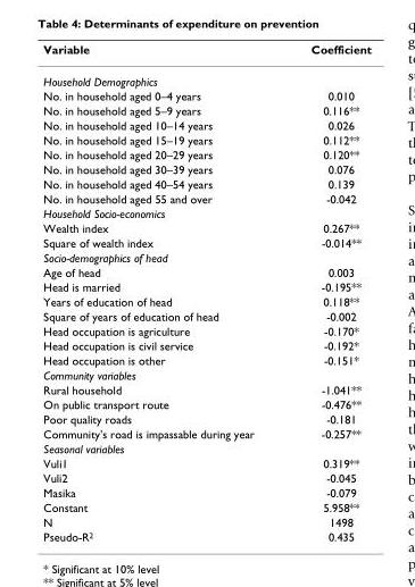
<table><thead><tr><td>Variable</td><td>Coefficient</td></tr></thead><tbody><tr><td colspan="2">Household Demographics</td></tr><tr><td>No. in household aged 0–4 years</td><td>0.010</td></tr><tr><td>No. in household aged 5–9 years</td><td>0.116**</td></tr><tr><td>No. in household aged 10–14 years</td><td>0.026</td></tr><tr><td>No. in household aged 15–19 years</td><td>0.112**</td></tr><tr><td>No. in household aged 20–29 years</td><td>0.120**</td></tr><tr><td>No. in household aged 30–39 years</td><td>0.076</td></tr><tr><td>No. in household aged 40–54 years</td><td>0.139</td></tr><tr><td>No. in household aged 55 and over</td><td>-0.042</td></tr><tr><td colspan="2">Household Socio-economics</td></tr><tr><td>Wealth index</td><td>0.267**</td></tr><tr><td>Square of wealth index</td><td>-0.014**</td></tr><tr><td colspan="2">Socio-demographics of head</td></tr><tr><td>Age of head</td><td>0.003</td></tr><tr><td>Head is married</td><td>-0.195**</td></tr><tr><td>Years of education of head</td><td>0.118**</td></tr><tr><td>Square of years of education of head</td><td>-0.002</td></tr><tr><td>Head occupation is agriculture</td><td>-0.170*</td></tr><tr><td>Head occupation is civil service</td><td>-0.192*</td></tr><tr><td>Head occupation is other</td><td>-0.151*</td></tr><tr><td colspan="2">Community variables</td></tr><tr><td>Rural household</td><td>-1.041**</td></tr><tr><td>On public transport route</td><td>-0.476**</td></tr><tr><td>Poor quality roads</td><td>-0.181</td></tr><tr><td>Community&#x27;s road is impassable during year</td><td>-0.257**</td></tr><tr><td colspan="2">Seasonal variables</td></tr><tr><td>Vuli1</td><td>0.319**</td></tr><tr><td>Vuli2</td><td>-0.045</td></tr><tr><td>Masika</td><td>-0.079</td></tr><tr><td>Constant</td><td>5.958**</td></tr><tr><td>N</td><td>1498</td></tr><tr><td>Pseudo-R<sup>2</sup></td><td>0.435</td></tr></tbody></table>